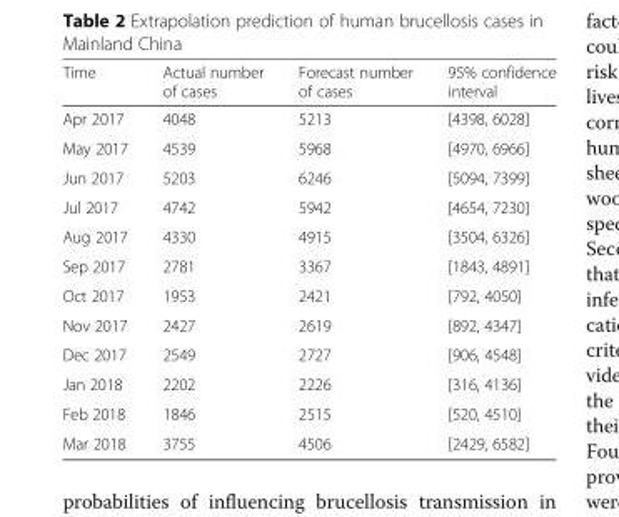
<table><thead><tr><td>Time</td><td>Actual number of cases</td><td>Forecast number of cases</td><td>95% confidence interval</td></tr></thead><tbody><tr><td>Apr 2017</td><td>4048</td><td>5213</td><td>[4398, 6028]</td></tr><tr><td>May 2017</td><td>4539</td><td>5968</td><td>[4970, 6966]</td></tr><tr><td>Jun 2017</td><td>5203</td><td>6246</td><td>[5094, 7399]</td></tr><tr><td>Jul 2017</td><td>4742</td><td>5942</td><td>[4654, 7230]</td></tr><tr><td>Aug 2017</td><td>4330</td><td>4915</td><td>[3504, 6326]</td></tr><tr><td>Sep 2017</td><td>2781</td><td>3367</td><td>[1843, 4891]</td></tr><tr><td>Oct 2017</td><td>1953</td><td>2421</td><td>[792, 4050]</td></tr><tr><td>Nov 2017</td><td>2427</td><td>2619</td><td>[892, 4347]</td></tr><tr><td>Dec 2017</td><td>2549</td><td>2727</td><td>[906, 4548]</td></tr><tr><td>Jan 2018</td><td>2202</td><td>2226</td><td>[316, 4136]</td></tr><tr><td>Feb 2018</td><td>1846</td><td>2515</td><td>[520, 4510]</td></tr><tr><td>Mar 2018</td><td>3755</td><td>4506</td><td>[2429, 6582]</td></tr></tbody></table>